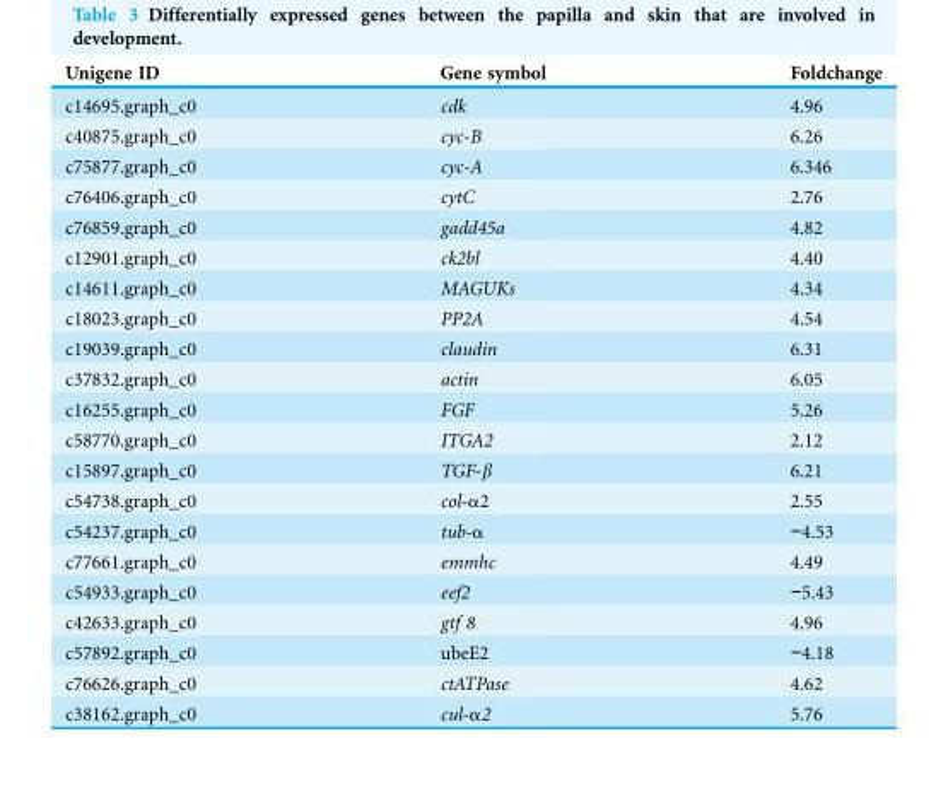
<table><thead><tr><td>Unigene ID</td><td>Gene symbol</td><td>Foldchange</td></tr></thead><tbody><tr><td>c14695.graph_c0</td><td>cdk</td><td>4.96</td></tr><tr><td>c40875.graph_c0</td><td>cyc-B</td><td>6.26</td></tr><tr><td>c75877.graph_c0</td><td>cyc-A</td><td>6.346</td></tr><tr><td>c76406.graph_c0</td><td>cytC</td><td>2.76</td></tr><tr><td>c76859.graph_c0</td><td>gadd45a</td><td>4.82</td></tr><tr><td>c12901.graph_c0</td><td>ck2bl</td><td>4.40</td></tr><tr><td>c14611.graph_c0</td><td>MAGUKs</td><td>4.34</td></tr><tr><td>c18023.graph_c0</td><td>PP2A</td><td>4.54</td></tr><tr><td>c19039.graph_c0</td><td>claudin</td><td>6.31</td></tr><tr><td>c37832.graph_c0</td><td>actin</td><td>6.05</td></tr><tr><td>c16255.graph_c0</td><td>FGF</td><td>5.26</td></tr><tr><td>c58770.graph_c0</td><td>ITGA2</td><td>2.12</td></tr><tr><td>c15897.graph_c0</td><td>TGF-β</td><td>6.21</td></tr><tr><td>c54738.graph_c0</td><td>col-α2</td><td>2.55</td></tr><tr><td>c54237.graph_c0</td><td>tub-α</td><td>−4.53</td></tr><tr><td>c77661.graph_c0</td><td>emmhc</td><td>4.49</td></tr><tr><td>c54933.graph_c0</td><td>eef2</td><td>−5.43</td></tr><tr><td>c42633.graph_c0</td><td>gtf 8</td><td>4.96</td></tr><tr><td>c57892.graph_c0</td><td>ubeE2</td><td>−4.18</td></tr><tr><td>c76626.graph_c0</td><td>ctATPase</td><td>4.62</td></tr><tr><td>c38162.graph_c0</td><td>cul-α2</td><td>5.76</td></tr></tbody></table>